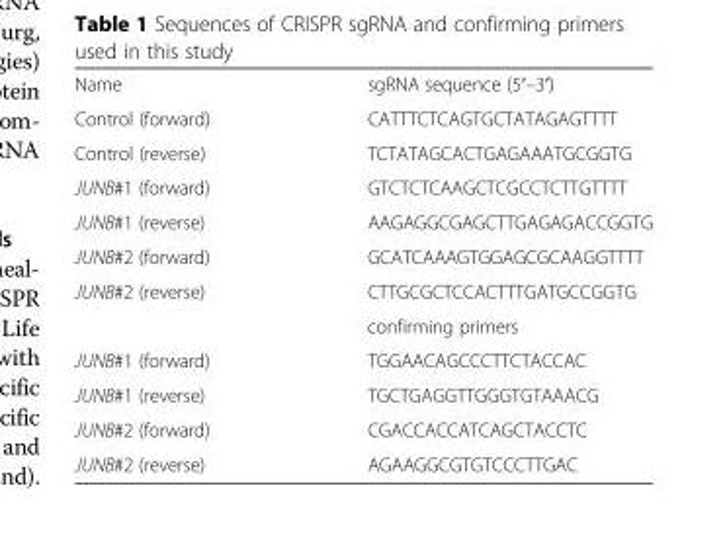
<table><tbody><tr><td>Name</td><td>sgRNA sequence (5′–3′)</td></tr><tr><td>Control (forward)</td><td>CATTTCTCAGTGCTATAGAGTTTT</td></tr><tr><td>Control (reverse)</td><td>TCTATAGCACTGAGAAATGCGGTG</td></tr><tr><td>JUNB#1 (forward)</td><td>GTCTCTCAAGCTCGCCTCTTGTTTT</td></tr><tr><td>JUNB#1 (reverse)</td><td>AAGAGGCGAGCTTGAGAGACCGGTG</td></tr><tr><td>JUNB#2 (forward)</td><td>GCATCAAAGTGGAGCGCAAGGTTTT</td></tr><tr><td rowspan="2">JUNB#2 (reverse)</td><td>CTTGCGCTCCACTTTGATGCCGGTG</td></tr><tr><td>confirming primers</td></tr><tr><td>JUNB#1 (forward)</td><td>TGGAACAGCCCTTCTACCAC</td></tr><tr><td>JUNB#1 (reverse)</td><td>TGCTGAGGTTGGGTGTAAACG</td></tr><tr><td>JUNB#2 (forward)</td><td>CGACCACCATCAGCTACCTC</td></tr><tr><td>JUNB#2 (reverse)</td><td>AGAAGGCGTGTCCCTTGAC</td></tr></tbody></table>